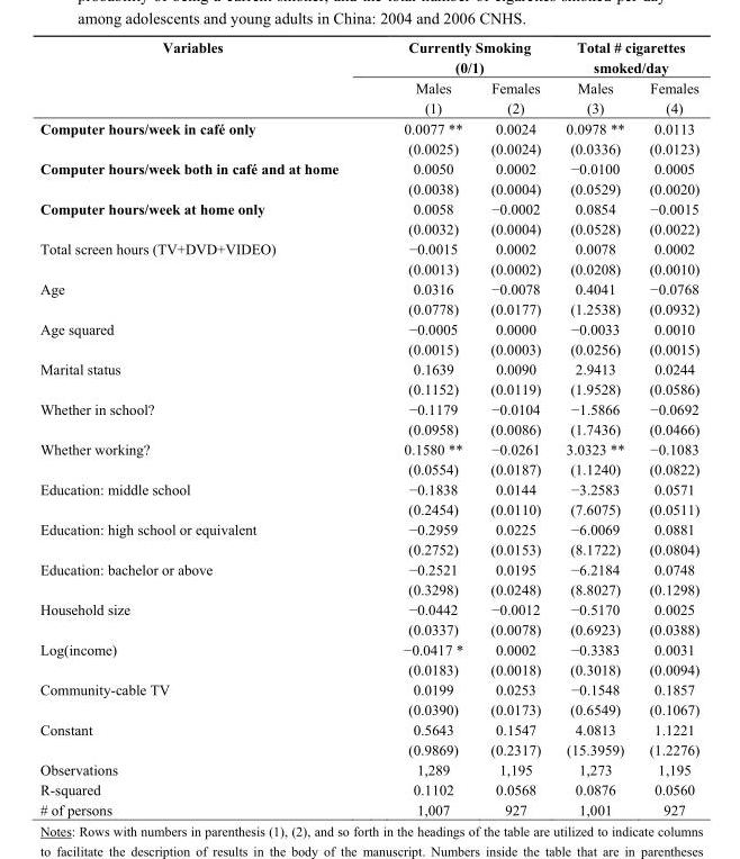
<table><thead><tr><td rowspan="3">Variables</td><td colspan="2">Currently Smoking (0/1)</td><td colspan="2">Total # cigarettes smoked/day</td></tr><tr><td rowspan="2">Males (1)</td><td rowspan="2">Females (2)</td><td rowspan="2">Males (3)</td><td rowspan="2">Females (4)</td></tr><tr></tr></thead><tbody><tr><td rowspan="2">Computer hours/week in café only</td><td>0.0077 **</td><td>0.0024</td><td>0.0978 **</td><td>0.0113</td></tr><tr><td>(0.0025)</td><td>(0.0024)</td><td>(0.0336)</td><td>(0.0123)</td></tr><tr><td rowspan="2">Computer hours/week both in café and at home</td><td>0.0050</td><td>0.0002</td><td>−0.0100</td><td>0.0005</td></tr><tr><td>(0.0038)</td><td>(0.0004)</td><td>(0.0529)</td><td>(0.0020)</td></tr><tr><td rowspan="2">Computer hours/week at home only</td><td>0.0058</td><td>−0.0002</td><td>0.0854</td><td>−0.0015</td></tr><tr><td>(0.0032)</td><td>(0.0004)</td><td>(0.0528)</td><td>(0.0022)</td></tr><tr><td rowspan="2">Total screen hours (TV+DVD+VIDEO)</td><td>−0.0015</td><td>0.0002</td><td>0.0078</td><td>0.0002</td></tr><tr><td>(0.0013)</td><td>(0.0002)</td><td>(0.0208)</td><td>(0.0010)</td></tr><tr><td rowspan="2">Age</td><td>0.0316</td><td>−0.0078</td><td>0.4041</td><td>−0.0768</td></tr><tr><td>(0.0778)</td><td>(0.0177)</td><td>(1.2538)</td><td>(0.0932)</td></tr><tr><td rowspan="2">Age squared</td><td>−0.0005</td><td>0.0000</td><td>−0.0033</td><td>0.0010</td></tr><tr><td>(0.0015)</td><td>(0.0003)</td><td>(0.0256)</td><td>(0.0015)</td></tr><tr><td rowspan="2">Marital status</td><td>0.1639</td><td>0.0090</td><td>2.9413</td><td>0.0244</td></tr><tr><td>(0.1152)</td><td>(0.0119)</td><td>(1.9528)</td><td>(0.0586)</td></tr><tr><td rowspan="2">Whether in school?</td><td>−0.1179</td><td>−0.0104</td><td>−1.5866</td><td>−0.0692</td></tr><tr><td>(0.0958)</td><td>(0.0086)</td><td>(1.7436)</td><td>(0.0466)</td></tr><tr><td rowspan="2">Whether working?</td><td>0.1580 **</td><td>−0.0261</td><td>3.0323 **</td><td>−0.1083</td></tr><tr><td>(0.0554)</td><td>(0.0187)</td><td>(1.1240)</td><td>(0.0822)</td></tr><tr><td rowspan="2">Education: middle school</td><td>−0.1838</td><td>0.0144</td><td>−3.2583</td><td>0.0571</td></tr><tr><td>(0.2454)</td><td>(0.0110)</td><td>(7.6075)</td><td>(0.0511)</td></tr><tr><td rowspan="2">Education: high school or equivalent</td><td>−0.2959</td><td>0.0225</td><td>−6.0069</td><td>0.0881</td></tr><tr><td>(0.2752)</td><td>(0.0153)</td><td>(8.1722)</td><td>(0.0804)</td></tr><tr><td rowspan="2">Education: bachelor or above</td><td>−0.2521</td><td>0.0195</td><td>−6.2184</td><td>0.0748</td></tr><tr><td>(0.3298)</td><td>(0.0248)</td><td>(8.8027)</td><td>(0.1298)</td></tr><tr><td rowspan="2">Household size</td><td>−0.0442</td><td>−0.0012</td><td>−0.5170</td><td>0.0025</td></tr><tr><td>(0.0337)</td><td>(0.0078)</td><td>(0.6923)</td><td>(0.0388)</td></tr><tr><td rowspan="2">Log(income)</td><td>−0.0417 *</td><td>0.0002</td><td>−0.3383</td><td>0.0031</td></tr><tr><td>(0.0183)</td><td>(0.0018)</td><td>(0.3018)</td><td>(0.0094)</td></tr><tr><td rowspan="2">Community-cable TV</td><td>0.0199</td><td>0.0253</td><td>−0.1548</td><td>0.1857</td></tr><tr><td>(0.0390)</td><td>(0.0173)</td><td>(0.6549)</td><td>(0.1067)</td></tr><tr><td rowspan="2">Constant</td><td>0.5643</td><td>0.1547</td><td>4.0813</td><td>1.1221</td></tr><tr><td>(0.9869)</td><td>(0.2317)</td><td>(15.3959)</td><td>(1.2276)</td></tr><tr><td>Observations</td><td>1,289</td><td>1,195</td><td>1,273</td><td>1,195</td></tr><tr><td>R-squared</td><td>0.1102</td><td>0.0568</td><td>0.0876</td><td>0.0560</td></tr><tr><td># of persons</td><td>1,007</td><td>927</td><td>1,001</td><td>927</td></tr></tbody></table>